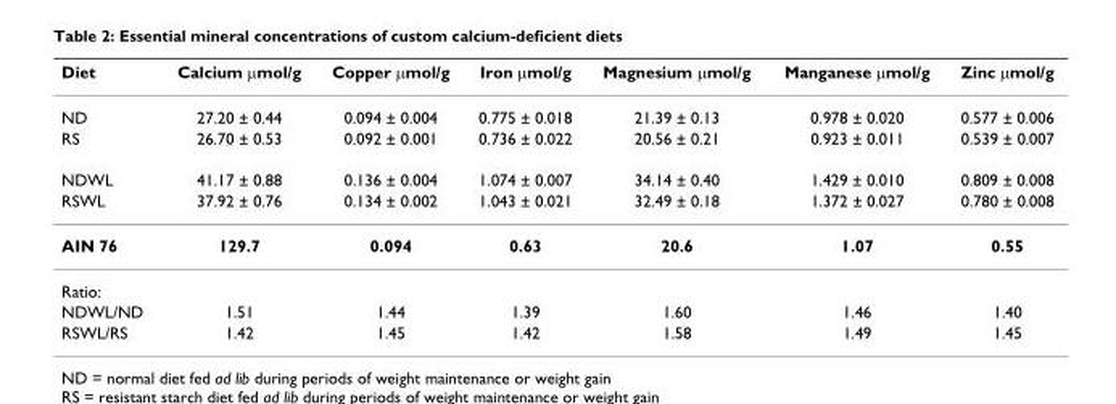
<table><thead><tr><td>Diet</td><td>Calcium μmol/g</td><td>Copper μmol/g</td><td>Iron μmol/g</td><td>Magnesium μmol/g</td><td>Manganese μmol/g</td><td>Zinc μmol/g</td></tr></thead><tbody><tr><td>ND</td><td>27.20 ± 0.44</td><td>0.094 ± 0.004</td><td>0.775 ± 0.018</td><td>21.39 ± 0.13</td><td>0.978 ± 0.020</td><td>0.577 ± 0.006</td></tr><tr><td>RS</td><td>26.70 ± 0.53</td><td>0.092 ± 0.001</td><td>0.736 ± 0.022</td><td>20.56 ± 0.21</td><td>0.923 ± 0.011</td><td>0.539 ± 0.007</td></tr><tr><td>NDWL</td><td>41.17 ± 0.88</td><td>0.136 ± 0.004</td><td>1.074 ± 0.007</td><td>34.14 ± 0.40</td><td>1.429 ± 0.010</td><td>0.809 ± 0.008</td></tr><tr><td>RSWL</td><td>37.92 ± 0.76</td><td>0.134 ± 0.002</td><td>1.043 ± 0.021</td><td>32.49 ± 0.18</td><td>1.372 ± 0.027</td><td>0.780 ± 0.008</td></tr><tr><td>AIN 76</td><td>129.7</td><td>0.094</td><td>0.63</td><td>20.6</td><td>1.07</td><td>0.55</td></tr><tr><td colspan="7">Ratio:</td></tr><tr><td>NDWL/ND</td><td>1.51</td><td>1.44</td><td>1.39</td><td>1.60</td><td>1.46</td><td>1.40</td></tr><tr><td>RSWL/RS</td><td>1.42</td><td>1.45</td><td>1.42</td><td>1.58</td><td>1.49</td><td>1.45</td></tr></tbody></table>